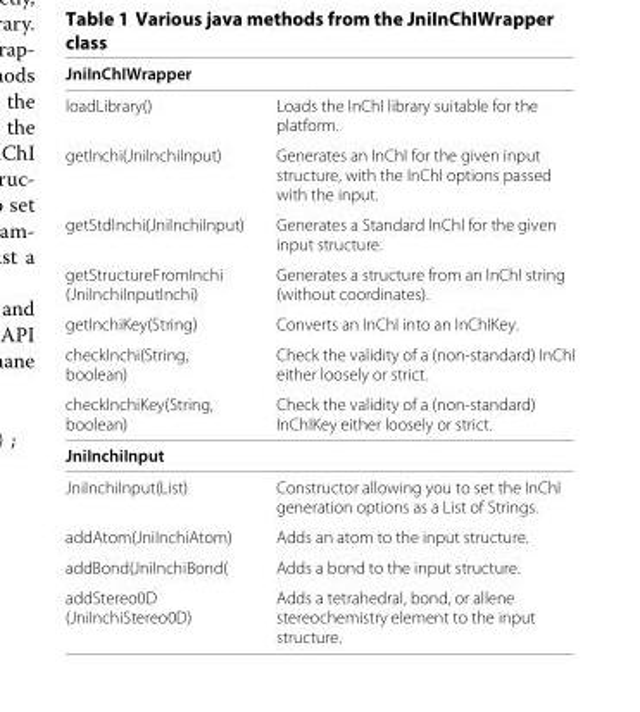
<table><thead><tr><td>JniInChIWrapper</td><td></td></tr></thead><tbody><tr><td>loadLibrary()</td><td>Loads the InChI library suitable for the platform.</td></tr><tr><td>getInchi(JniInchiInput)</td><td>Generates an InChI for the given input structure, with the InChI options passed with the input.</td></tr><tr><td>getStdInchi(JniInchiInput)</td><td>Generates a Standard InChI for the given input structure.</td></tr><tr><td>getStructureFromInchi (JniInchiInputInchi)</td><td>Generates a structure from an InChI string (without coordinates).</td></tr><tr><td>getInchiKey(String)</td><td>Converts an InChI into an InChIKey.</td></tr><tr><td>checkInchi(String, boolean)</td><td>Check the validity of a (non-standard) InChI either loosely or strict.</td></tr><tr><td>checkInchiKey(String, boolean)</td><td>Check the validity of a (non-standard) InChIKey either loosely or strict.</td></tr><tr><td colspan="2">JniInchiInput</td></tr><tr><td>JniInchiInput(List)</td><td>Constructor allowing you to set the InChI generation options as a List of Strings.</td></tr><tr><td>addAtom(JniInchiAtom)</td><td>Adds an atom to the input structure.</td></tr><tr><td>addBond(JniInchiBond(</td><td>Adds a bond to the input structure.</td></tr><tr><td>addStereo0D (JniInchiStereo0D)</td><td>Adds a tetrahedral, bond, or allene stereochemistry element to the input structure.</td></tr></tbody></table>